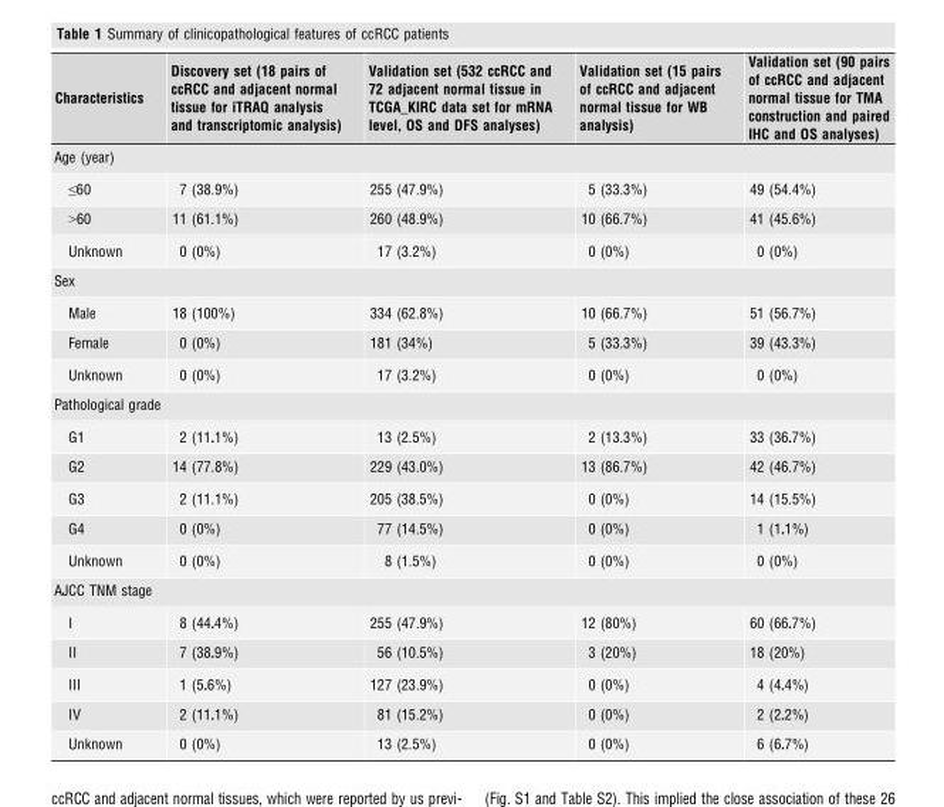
<table><thead><tr><td>Characteristics</td><td>Discovery set (18 pairs of ccRCC and adjacent normal tissue for iTRAQ analysis and transcriptomic analysis)</td><td>Validation set (532 ccRCC and 72 adjacent normal tissue in TCGA_KIRC data set for mRNA level, OS and DFS analyses)</td><td>Validation set (15 pairs of ccRCC and adjacent normal tissue for WB analysis)</td><td>Validation set (90 pairs of ccRCC and adjacent normal tissue for TMA construction and paired IHC and OS analyses)</td></tr></thead><tbody><tr><td colspan="5">Age (year)</td></tr><tr><td>≤60</td><td>7 (38.9%)</td><td>255 (47.9%)</td><td>5 (33.3%)</td><td>49 (54.4%)</td></tr><tr><td>&gt;60</td><td>11 (61.1%)</td><td>260 (48.9%)</td><td>10 (66.7%)</td><td>41 (45.6%)</td></tr><tr><td>Unknown</td><td>0 (0%)</td><td>17 (3.2%)</td><td>0 (0%)</td><td>0 (0%)</td></tr><tr><td colspan="5">Sex</td></tr><tr><td>Male</td><td>18 (100%)</td><td>334 (62.8%)</td><td>10 (66.7%)</td><td>51 (56.7%)</td></tr><tr><td>Female</td><td>0 (0%)</td><td>181 (34%)</td><td>5 (33.3%)</td><td>39 (43.3%)</td></tr><tr><td>Unknown</td><td>0 (0%)</td><td>17 (3.2%)</td><td>0 (0%)</td><td>0 (0%)</td></tr><tr><td colspan="5">Pathological grade</td></tr><tr><td>G1</td><td>2 (11.1%)</td><td>13 (2.5%)</td><td>2 (13.3%)</td><td>33 (36.7%)</td></tr><tr><td>G2</td><td>14 (77.8%)</td><td>229 (43.0%)</td><td>13 (86.7%)</td><td>42 (46.7%)</td></tr><tr><td>G3</td><td>2 (11.1%)</td><td>205 (38.5%)</td><td>0 (0%)</td><td>14 (15.5%)</td></tr><tr><td>G4</td><td>0 (0%)</td><td>77 (14.5%)</td><td>0 (0%)</td><td>1 (1.1%)</td></tr><tr><td>Unknown</td><td>0 (0%)</td><td>8 (1.5%)</td><td>0 (0%)</td><td>0 (0%)</td></tr><tr><td colspan="5">AJCC TNM stage</td></tr><tr><td>I</td><td>8 (44.4%)</td><td>255 (47.9%)</td><td>12 (80%)</td><td>60 (66.7%)</td></tr><tr><td>II</td><td>7 (38.9%)</td><td>56 (10.5%)</td><td>3 (20%)</td><td>18 (20%)</td></tr><tr><td>III</td><td>1 (5.6%)</td><td>127 (23.9%)</td><td>0 (0%)</td><td>4 (4.4%)</td></tr><tr><td>IV</td><td>2 (11.1%)</td><td>81 (15.2%)</td><td>0 (0%)</td><td>2 (2.2%)</td></tr><tr><td>Unknown</td><td>0 (0%)</td><td>13 (2.5%)</td><td>0 (0%)</td><td>6 (6.7%)</td></tr></tbody></table>